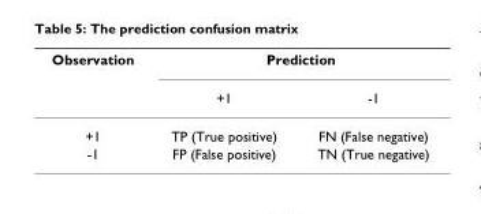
<table><thead><tr><td rowspan="2">Observation</td><td colspan="2">Prediction</td></tr><tr><td>+1</td><td>-1</td></tr></thead><tbody><tr><td>+1</td><td>TP (True positive)</td><td>FN (False negative)</td></tr><tr><td>-1</td><td>FP (False positive)</td><td>TN (True negative)</td></tr></tbody></table>